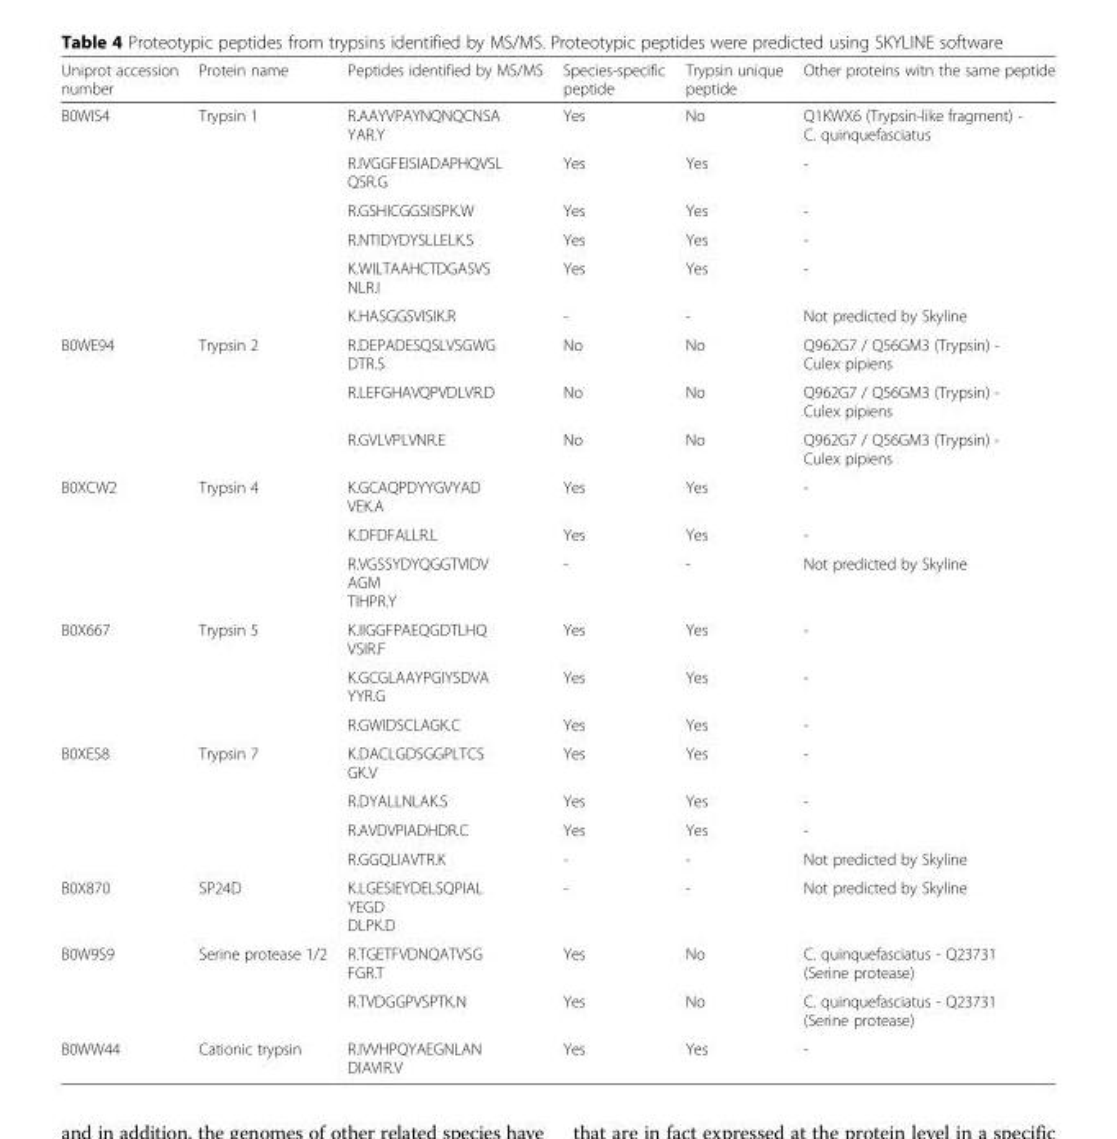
<table><thead><tr><td>Uniprot accession number</td><td>Protein name</td><td>Peptides identified by MS/MS</td><td>Species-specific peptide</td><td>Trypsin unique peptide</td><td>Other proteins witn the same peptide</td></tr></thead><tbody><tr><td rowspan="6">B0WIS4</td><td>Trypsin 1</td><td>R.AAYVPAYNQNQCNSA YAR.Y</td><td>Yes</td><td>No</td><td>Q1KWX6 (Trypsin-like fragment) - C. quinquefasciatus</td></tr><tr><td></td><td>R.IVGGFEISIADAPHQVSL QSR.G</td><td>Yes</td><td>Yes</td><td>-</td></tr><tr><td></td><td>R.GSHICGGSIISPK.W</td><td>Yes</td><td>Yes</td><td>-</td></tr><tr><td></td><td>R.NTIDYDYSLLELK.S</td><td>Yes</td><td>Yes</td><td>-</td></tr><tr><td></td><td>K.WILTAAHCTDGASVS NLR.I</td><td>Yes</td><td>Yes</td><td>-</td></tr><tr><td></td><td>K.HASGGSVISIK.R</td><td>-</td><td>-</td><td>Not predicted by Skyline</td></tr><tr><td rowspan="3">B0WE94</td><td>Trypsin 2</td><td>R.DEPADESQSLVSGWG DTR.S</td><td>No</td><td>No</td><td>Q962G7 / Q56GM3 (Trypsin) - Culex pipiens</td></tr><tr><td></td><td>R.LEFGHAVQPVDLVR.D</td><td>No</td><td>No</td><td>Q962G7 / Q56GM3 (Trypsin) - Culex pipiens</td></tr><tr><td></td><td>R.GVLVPLVNR.E</td><td>No</td><td>No</td><td>Q962G7 / Q56GM3 (Trypsin) - Culex pipiens</td></tr><tr><td rowspan="3">B0XCW2</td><td>Trypsin 4</td><td>K.GCAQPDYYGVYAD VEK.A</td><td>Yes</td><td>Yes</td><td>-</td></tr><tr><td></td><td>K.DFDFALLR.L</td><td>Yes</td><td>Yes</td><td>-</td></tr><tr><td></td><td>R.VGSSYDYQGGTVIDV AGM TIHPR.Y</td><td>-</td><td>-</td><td>Not predicted by Skyline</td></tr><tr><td rowspan="3">B0X667</td><td>Trypsin 5</td><td>K.IIGGFPAEQGDTLHQ VSIR.F</td><td>Yes</td><td>Yes</td><td>-</td></tr><tr><td></td><td>K.GCGLAAYPGIYSDVA YYR.G</td><td>Yes</td><td>Yes</td><td>-</td></tr><tr><td></td><td>R.GWIDSCLAGK.C</td><td>Yes</td><td>Yes</td><td>-</td></tr><tr><td rowspan="4">B0XES8</td><td>Trypsin 7</td><td>K.DACLGDSGGPLTCS GK.V</td><td>Yes</td><td>Yes</td><td>-</td></tr><tr><td></td><td>R.DYALLNLAK.S</td><td>Yes</td><td>Yes</td><td>-</td></tr><tr><td></td><td>R.AVDVPIADHDR.C</td><td>Yes</td><td>Yes</td><td>-</td></tr><tr><td></td><td>R.GGQLIAVTR.K</td><td>-</td><td>-</td><td>Not predicted by Skyline</td></tr><tr><td>B0X870</td><td>SP24D</td><td>K.LGESIEYDELSQPIAL YEGD DLPK.D</td><td>-</td><td>-</td><td>Not predicted by Skyline</td></tr><tr><td rowspan="2">B0W9S9</td><td>Serine protease 1/2</td><td>R.TGETFVDNQATVSG FGR.T</td><td>Yes</td><td>No</td><td>C. quinquefasciatus - Q23731 (Serine protease)</td></tr><tr><td></td><td>R.TVDGGPVSPTK.N</td><td>Yes</td><td>No</td><td>C. quinquefasciatus - Q23731 (Serine protease)</td></tr><tr><td>B0WW44</td><td>Cationic trypsin</td><td>R.IVVHPQYAEGNLAN DIAVIR.V</td><td>Yes</td><td>Yes</td><td>-</td></tr></tbody></table>